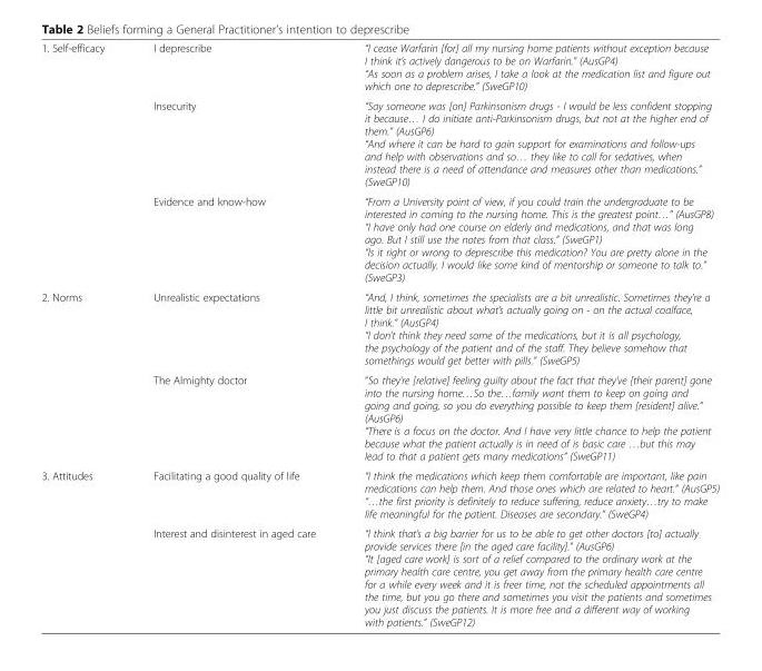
<table><tbody><tr><td rowspan="3">1. Self-efficacy</td><td>I deprescribe</td><td>“I cease Warfarin [for] all my nursing home patients without exception because I think it’s actively dangerous to be on Warfarin.” (AusGP4) “As soon as a problem arises, I take a look at the medication list and figure out which one to deprescribe.” (SweGP10)</td></tr><tr><td>Insecurity</td><td>“Say someone was [on] Parkinsonism drugs - I would be less confident stopping it because… I do initiate anti-Parkinsonism drugs, but not at the higher end of them.” (AusGP6) “And where it can be hard to gain support for examinations and follow-ups and help with observations and so… they like to call for sedatives, when instead there is a need of attendance and measures other than medications.” (SweGP10)</td></tr><tr><td>Evidence and know-how</td><td>“From a University point of view, if you could train the undergraduate to be interested in coming to the nursing home. This is the greatest point…” (AusGP8) “I have only had one course on elderly and medications, and that was long ago. But I still use the notes from that class.” (SweGP1) “Is it right or wrong to deprescribe this medication? You are pretty alone in the decision actually. I would like some kind of mentorship or someone to talk to.” (SweGP3)</td></tr><tr><td rowspan="2">2. Norms</td><td>Unrealistic expectations</td><td>“And, I think, sometimes the specialists are a bit unrealistic. Sometimes they’re a little bit unrealistic about what’s actually going on - on the actual coalface, I think.” (AusGP4) “I don’t think they need some of the medications, but it is all psychology, the psychology of the patient and of the staff. They believe somehow that somethings would get better with pills.” (SweGP5)</td></tr><tr><td>The Almighty doctor</td><td>“So they’re [relative] feeling guilty about the fact that they’ve [their parent] gone into the nursing home…So the…family want them to keep on going and going and going, so you do everything possible to keep them [resident] alive.” (AusGP6) “There is a focus on the doctor. And I have very little chance to help the patient because what the patient actually is in need of is basic care …but this may lead to that a patient gets many medications” (SweGP11)</td></tr><tr><td rowspan="2">3. Attitudes</td><td>Facilitating a good quality of life</td><td>“I think the medications which keep them comfortable are important, like pain medications can help them. And those ones which are related to heart.” (AusGP5) “…the first priority is definitely to reduce suffering, reduce anxiety…try to make life meaningful for the patient. Diseases are secondary.” (SweGP4)</td></tr><tr><td>Interest and disinterest in aged care</td><td>“I think that’s a big barrier for us to be able to get other doctors [to] actually provide services there [in the aged care facility].” (AusGP6) “It [aged care work] is sort of a relief compared to the ordinary work at the primary health care centre, you get away from the primary health care centre for a while every week and it is freer time, not the scheduled appointments all the time, but you go there and sometimes you visit the patients and sometimes you just discuss the patients. It is more free and a different way of working with patients.” (SweGP12)</td></tr></tbody></table>